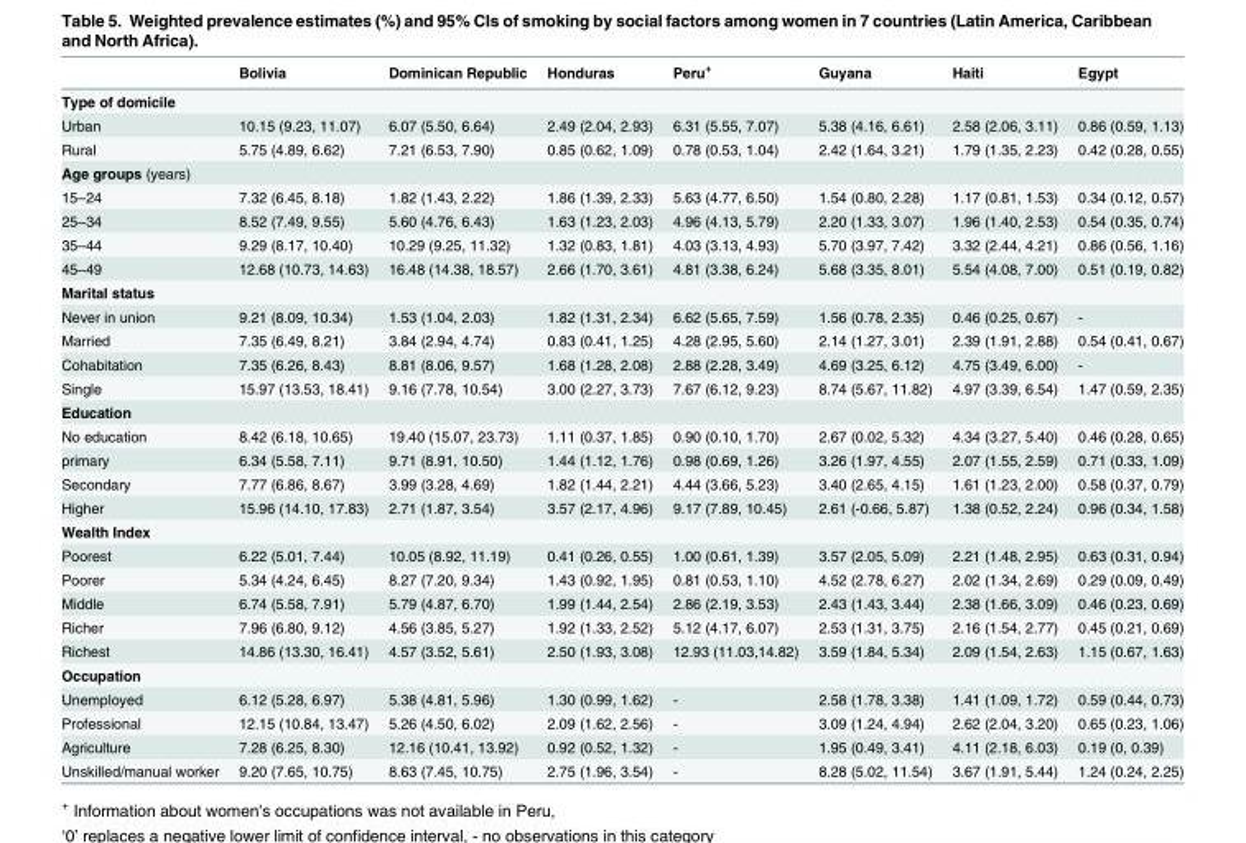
<table><thead><tr><td></td><td>Bolivia</td><td>Dominican Republic</td><td>Honduras</td><td>Peru<sup>+</sup></td><td>Guyana</td><td>Haiti</td><td>Egypt</td></tr></thead><tbody><tr><td colspan="8">Type of domicile</td></tr><tr><td>Urban</td><td>10.15 (9.23, 11.07)</td><td>6.07 (5.50, 6.64)</td><td>2.49 (2.04, 2.93)</td><td>6.31 (5.55, 7.07)</td><td>5.38 (4.16, 6.61)</td><td>2.58 (2.06, 3.11)</td><td>0.86 (0.59, 1.13)</td></tr><tr><td>Rural</td><td>5.75 (4.89, 6.62)</td><td>7.21 (6.53, 7.90)</td><td>0.85 (0.62, 1.09)</td><td>0.78 (0.53, 1.04)</td><td>2.42 (1.64, 3.21)</td><td>1.79 (1.35, 2.23)</td><td>0.42 (0.28, 0.55)</td></tr><tr><td colspan="8">Age groups (years)</td></tr><tr><td>15–24</td><td>7.32 (6.45, 8.18)</td><td>1.82 (1.43, 2.22)</td><td>1.86 (1.39, 2.33)</td><td>5.63 (4.77, 6.50)</td><td>1.54 (0.80, 2.28)</td><td>1.17 (0.81, 1.53)</td><td>0.34 (0.12, 0.57)</td></tr><tr><td>25–34</td><td>8.52 (7.49, 9.55)</td><td>5.60 (4.76, 6.43)</td><td>1.63 (1.23, 2.03)</td><td>4.96 (4.13, 5.79)</td><td>2.20 (1.33, 3.07)</td><td>1.96 (1.40, 2.53)</td><td>0.54 (0.35, 0.74)</td></tr><tr><td>35–44</td><td>9.29 (8.17, 10.40)</td><td>10.29 (9.25, 11.32)</td><td>1.32 (0.83, 1.81)</td><td>4.03 (3.13, 4.93)</td><td>5.70 (3.97, 7.42)</td><td>3.32 (2.44, 4.21)</td><td>0.86 (0.56, 1.16)</td></tr><tr><td>45–49</td><td>12.68 (10.73, 14.63)</td><td>16.48 (14.38, 18.57)</td><td>2.66 (1.70, 3.61)</td><td>4.81 (3.38, 6.24)</td><td>5.68 (3.35, 8.01)</td><td>5.54 (4.08, 7.00)</td><td>0.51 (0.19, 0.82)</td></tr><tr><td colspan="8">Marital status</td></tr><tr><td>Never in union</td><td>9.21 (8.09, 10.34)</td><td>1.53 (1.04, 2.03)</td><td>1.82 (1.31, 2.34)</td><td>6.62 (5.65, 7.59)</td><td>1.56 (0.78, 2.35)</td><td>0.46 (0.25, 0.67)</td><td>-</td></tr><tr><td>Married</td><td>7.35 (6.49, 8.21)</td><td>3.84 (2.94, 4.74)</td><td>0.83 (0.41, 1.25)</td><td>4.28 (2.95, 5.60)</td><td>2.14 (1.27, 3.01)</td><td>2.39 (1.91, 2.88)</td><td>0.54 (0.41, 0.67)</td></tr><tr><td>Cohabitation</td><td>7.35 (6.26, 8.43)</td><td>8.81 (8.06, 9.57)</td><td>1.68 (1.28, 2.08)</td><td>2.88 (2.28, 3.49)</td><td>4.69 (3.25, 6.12)</td><td>4.75 (3.49, 6.00)</td><td>-</td></tr><tr><td>Single</td><td>15.97 (13.53, 18.41)</td><td>9.16 (7.78, 10.54)</td><td>3.00 (2.27, 3.73)</td><td>7.67 (6.12, 9.23)</td><td>8.74 (5.67, 11.82)</td><td>4.97 (3.39, 6.54)</td><td>1.47 (0.59, 2.35)</td></tr><tr><td colspan="8">Education</td></tr><tr><td>No education</td><td>8.42 (6.18, 10.65)</td><td>19.40 (15.07, 23.73)</td><td>1.11 (0.37, 1.85)</td><td>0.90 (0.10, 1.70)</td><td>2.67 (0.02, 5.32)</td><td>4.34 (3.27, 5.40)</td><td>0.46 (0.28, 0.65)</td></tr><tr><td>primary</td><td>6.34 (5.58, 7.11)</td><td>9.71 (8.91, 10.50)</td><td>1.44 (1.12, 1.76)</td><td>0.98 (0.69, 1.26)</td><td>3.26 (1.97, 4.55)</td><td>2.07 (1.55, 2.59)</td><td>0.71 (0.33, 1.09)</td></tr><tr><td>Secondary</td><td>7.77 (6.86, 8.67)</td><td>3.99 (3.28, 4.69)</td><td>1.82 (1.44, 2.21)</td><td>4.44 (3.66, 5.23)</td><td>3.40 (2.65, 4.15)</td><td>1.61 (1.23, 2.00)</td><td>0.58 (0.37, 0.79)</td></tr><tr><td>Higher</td><td>15.96 (14.10, 17.83)</td><td>2.71 (1.87, 3.54)</td><td>3.57 (2.17, 4.96)</td><td>9.17 (7.89, 10.45)</td><td>2.61 (-0.66, 5.87)</td><td>1.38 (0.52, 2.24)</td><td>0.96 (0.34, 1.58)</td></tr><tr><td colspan="8">Wealth Index</td></tr><tr><td>Poorest</td><td>6.22 (5.01, 7.44)</td><td>10.05 (8.92, 11.19)</td><td>0.41 (0.26, 0.55)</td><td>1.00 (0.61, 1.39)</td><td>3.57 (2.05, 5.09)</td><td>2.21 (1.48, 2.95)</td><td>0.63 (0.31, 0.94)</td></tr><tr><td>Poorer</td><td>5.34 (4.24, 6.45)</td><td>8.27 (7.20, 9.34)</td><td>1.43 (0.92, 1.95)</td><td>0.81 (0.53, 1.10)</td><td>4.52 (2.78, 6.27)</td><td>2.02 (1.34, 2.69)</td><td>0.29 (0.09, 0.49)</td></tr><tr><td>Middle</td><td>6.74 (5.58, 7.91)</td><td>5.79 (4.87, 6.70)</td><td>1.99 (1.44, 2.54)</td><td>2.86 (2.19, 3.53)</td><td>2.43 (1.43, 3.44)</td><td>2.38 (1.66, 3.09)</td><td>0.46 (0.23, 0.69)</td></tr><tr><td>Richer</td><td>7.96 (6.80, 9.12)</td><td>4.56 (3.85, 5.27)</td><td>1.92 (1.33, 2.52)</td><td>5.12 (4.17, 6.07)</td><td>2.53 (1.31, 3.75)</td><td>2.16 (1.54, 2.77)</td><td>0.45 (0.21, 0.69)</td></tr><tr><td>Richest</td><td>14.86 (13.30, 16.41)</td><td>4.57 (3.52, 5.61)</td><td>2.50 (1.93, 3.08)</td><td>12.93 (11.03,14.82)</td><td>3.59 (1.84, 5.34)</td><td>2.09 (1.54, 2.63)</td><td>1.15 (0.67, 1.63)</td></tr><tr><td colspan="8">Occupation</td></tr><tr><td>Unemployed</td><td>6.12 (5.28, 6.97)</td><td>5.38 (4.81, 5.96)</td><td>1.30 (0.99, 1.62)</td><td>-</td><td>2.58 (1.78, 3.38)</td><td>1.41 (1.09, 1.72)</td><td>0.59 (0.44, 0.73)</td></tr><tr><td>Professional</td><td>12.15 (10.84, 13.47)</td><td>5.26 (4.50, 6.02)</td><td>2.09 (1.62, 2.56)</td><td>-</td><td>3.09 (1.24, 4.94)</td><td>2.62 (2.04, 3.20)</td><td>0.65 (0.23, 1.06)</td></tr><tr><td>Agriculture</td><td>7.28 (6.25, 8.30)</td><td>12.16 (10.41, 13.92)</td><td>0.92 (0.52, 1.32)</td><td>-</td><td>1.95 (0.49, 3.41)</td><td>4.11 (2.18, 6.03)</td><td>0.19 (0, 0.39)</td></tr><tr><td>Unskilled/manual worker</td><td>9.20 (7.65, 10.75)</td><td>8.63 (7.45, 10.75)</td><td>2.75 (1.96, 3.54)</td><td>-</td><td>8.28 (5.02, 11.54)</td><td>3.67 (1.91, 5.44)</td><td>1.24 (0.24, 2.25)</td></tr></tbody></table>